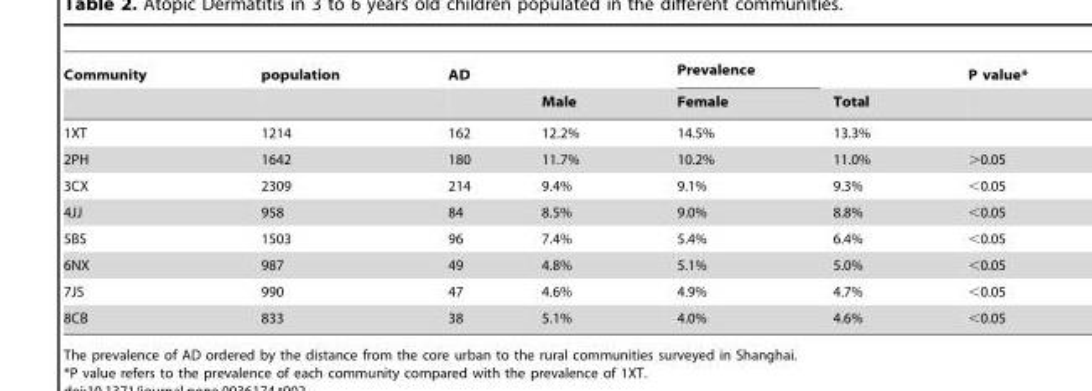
<table><thead><tr><td rowspan="2">Community</td><td rowspan="2">population</td><td rowspan="2">AD</td><td rowspan="2">Male</td><td rowspan="2">Prevalence Female</td><td rowspan="2">Total</td><td rowspan="2">P value*</td></tr><tr></tr></thead><tbody><tr><td>1XT</td><td>1214</td><td>162</td><td>12.2%</td><td>14.5%</td><td>13.3%</td><td></td></tr><tr><td>2PH</td><td>1642</td><td>180</td><td>11.7%</td><td>10.2%</td><td>11.0%</td><td>&gt;0.05</td></tr><tr><td>3CX</td><td>2309</td><td>214</td><td>9.4%</td><td>9.1%</td><td>9.3%</td><td>&lt;0.05</td></tr><tr><td>4JJ</td><td>958</td><td>84</td><td>8.5%</td><td>9.0%</td><td>8.8%</td><td>&lt;0.05</td></tr><tr><td>5BS</td><td>1503</td><td>96</td><td>7.4%</td><td>5.4%</td><td>6.4%</td><td>&lt;0.05</td></tr><tr><td>6NX</td><td>987</td><td>49</td><td>4.8%</td><td>5.1%</td><td>5.0%</td><td>&lt;0.05</td></tr><tr><td>7JS</td><td>990</td><td>47</td><td>4.6%</td><td>4.9%</td><td>4.7%</td><td>&lt;0.05</td></tr><tr><td>8CB</td><td>833</td><td>38</td><td>5.1%</td><td>4.0%</td><td>4.6%</td><td>&lt;0.05</td></tr></tbody></table>